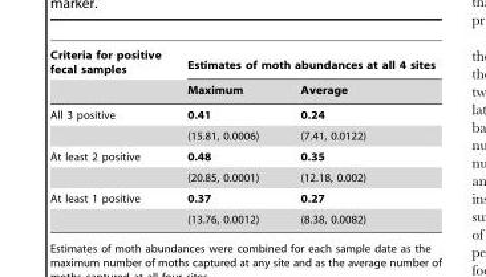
<table><thead><tr><td rowspan="2">Criteria for positive fecal samples</td><td colspan="2">Estimates of moth abundances at all 4 sites</td></tr><tr><td>Maximum</td><td>Average</td></tr></thead><tbody><tr><td rowspan="2">All 3 positive</td><td>0.41</td><td>0.24</td></tr><tr><td>(15.81, 0.0006)</td><td>(7.41, 0.0122)</td></tr><tr><td rowspan="2">At least 2 positive</td><td>0.48</td><td>0.35</td></tr><tr><td>(20.85, 0.0001)</td><td>(12.18, 0.002)</td></tr><tr><td rowspan="2">At least 1 positive</td><td>0.37</td><td>0.27</td></tr><tr><td>(13.76, 0.0012)</td><td>(8.38, 0.0082)</td></tr></tbody></table>